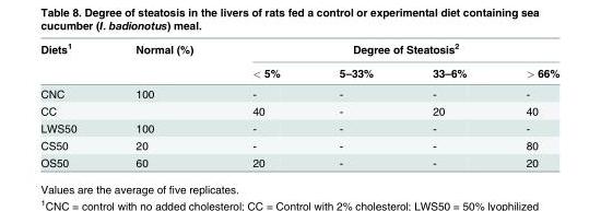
<table><thead><tr><td rowspan="2">Diets<sup>1</sup></td><td rowspan="2">Normal (%)</td><td colspan="4">Degree of Steatosis<sup>2</sup></td></tr><tr><td>&lt; 5%</td><td>5–33%</td><td>33–6%</td><td>&gt; 66%</td></tr></thead><tbody><tr><td>CNC</td><td>100</td><td>-</td><td>-</td><td>-</td><td>-</td></tr><tr><td>CC</td><td></td><td>40</td><td>-</td><td>20</td><td>40</td></tr><tr><td>LWS50</td><td>100</td><td>-</td><td>-</td><td>-</td><td>-</td></tr><tr><td>CS50</td><td>20</td><td>-</td><td>-</td><td>-</td><td>80</td></tr><tr><td>OS50</td><td>60</td><td>20</td><td>-</td><td>-</td><td>20</td></tr></tbody></table>